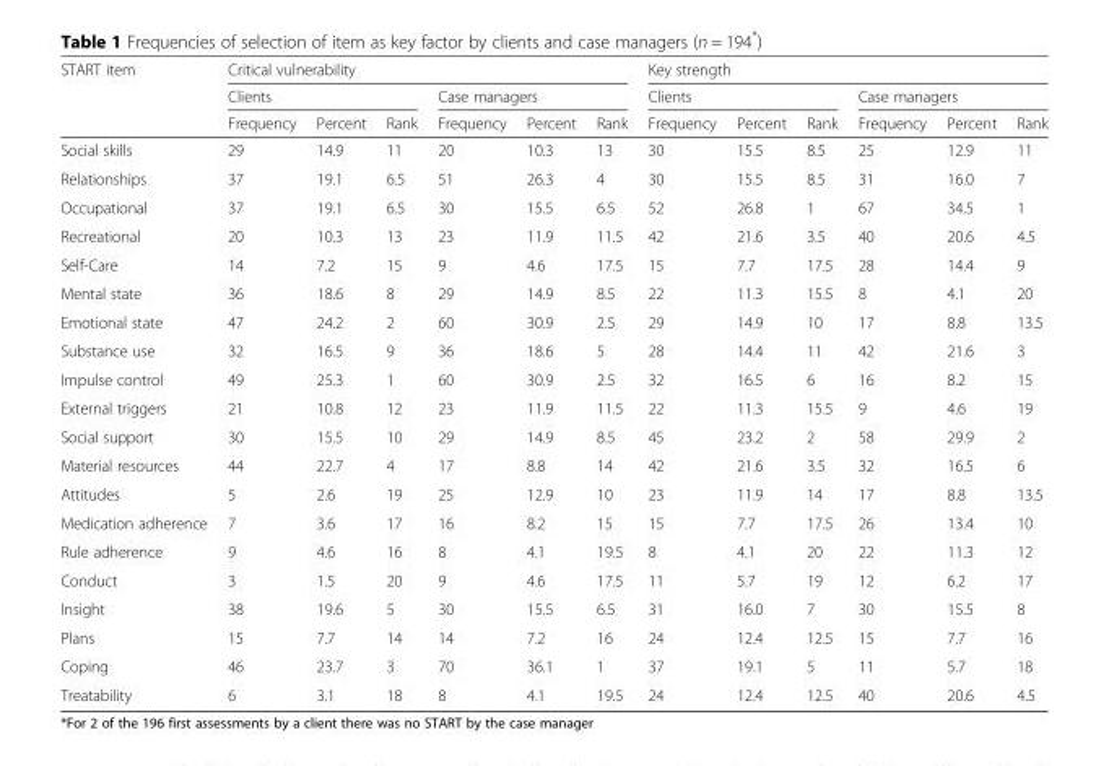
<table><thead><tr><td rowspan="3">START item</td><td colspan="6">Critical vulnerability</td><td colspan="6">Key strength</td></tr><tr><td colspan="3">Clients</td><td colspan="3">Case managers</td><td colspan="3">Clients</td><td colspan="3">Case managers</td></tr><tr><td>Frequency</td><td>Percent</td><td>Rank</td><td>Frequency</td><td>Percent</td><td>Rank</td><td>Frequency</td><td>Percent</td><td>Rank</td><td>Frequency</td><td>Percent</td><td>Rank</td></tr></thead><tbody><tr><td>Social skills</td><td>29</td><td>14.9</td><td>11</td><td>20</td><td>10.3</td><td>13</td><td>30</td><td>15.5</td><td>8.5</td><td>25</td><td>12.9</td><td>11</td></tr><tr><td>Relationships</td><td>37</td><td>19.1</td><td>6.5</td><td>51</td><td>26.3</td><td>4</td><td>30</td><td>15.5</td><td>8.5</td><td>31</td><td>16.0</td><td>7</td></tr><tr><td>Occupational</td><td>37</td><td>19.1</td><td>6.5</td><td>30</td><td>15.5</td><td>6.5</td><td>52</td><td>26.8</td><td>1</td><td>67</td><td>34.5</td><td>1</td></tr><tr><td>Recreational</td><td>20</td><td>10.3</td><td>13</td><td>23</td><td>11.9</td><td>11.5</td><td>42</td><td>21.6</td><td>3.5</td><td>40</td><td>20.6</td><td>4.5</td></tr><tr><td>Self-Care</td><td>14</td><td>7.2</td><td>15</td><td>9</td><td>4.6</td><td>17.5</td><td>15</td><td>7.7</td><td>17.5</td><td>28</td><td>14.4</td><td>9</td></tr><tr><td>Mental state</td><td>36</td><td>18.6</td><td>8</td><td>29</td><td>14.9</td><td>8.5</td><td>22</td><td>11.3</td><td>15.5</td><td>8</td><td>4.1</td><td>20</td></tr><tr><td>Emotional state</td><td>47</td><td>24.2</td><td>2</td><td>60</td><td>30.9</td><td>2.5</td><td>29</td><td>14.9</td><td>10</td><td>17</td><td>8.8</td><td>13.5</td></tr><tr><td>Substance use</td><td>32</td><td>16.5</td><td>9</td><td>36</td><td>18.6</td><td>5</td><td>28</td><td>14.4</td><td>11</td><td>42</td><td>21.6</td><td>3</td></tr><tr><td>Impulse control</td><td>49</td><td>25.3</td><td>1</td><td>60</td><td>30.9</td><td>2.5</td><td>32</td><td>16.5</td><td>6</td><td>16</td><td>8.2</td><td>15</td></tr><tr><td>External triggers</td><td>21</td><td>10.8</td><td>12</td><td>23</td><td>11.9</td><td>11.5</td><td>22</td><td>11.3</td><td>15.5</td><td>9</td><td>4.6</td><td>19</td></tr><tr><td>Social support</td><td>30</td><td>15.5</td><td>10</td><td>29</td><td>14.9</td><td>8.5</td><td>45</td><td>23.2</td><td>2</td><td>58</td><td>29.9</td><td>2</td></tr><tr><td>Material resources</td><td>44</td><td>22.7</td><td>4</td><td>17</td><td>8.8</td><td>14</td><td>42</td><td>21.6</td><td>3.5</td><td>32</td><td>16.5</td><td>6</td></tr><tr><td>Attitudes</td><td>5</td><td>2.6</td><td>19</td><td>25</td><td>12.9</td><td>10</td><td>23</td><td>11.9</td><td>14</td><td>17</td><td>8.8</td><td>13.5</td></tr><tr><td>Medication adherence</td><td>7</td><td>3.6</td><td>17</td><td>16</td><td>8.2</td><td>15</td><td>15</td><td>7.7</td><td>17.5</td><td>26</td><td>13.4</td><td>10</td></tr><tr><td>Rule adherence</td><td>9</td><td>4.6</td><td>16</td><td>8</td><td>4.1</td><td>19.5</td><td>8</td><td>4.1</td><td>20</td><td>22</td><td>11.3</td><td>12</td></tr><tr><td>Conduct</td><td>3</td><td>1.5</td><td>20</td><td>9</td><td>4.6</td><td>17.5</td><td>11</td><td>5.7</td><td>19</td><td>12</td><td>6.2</td><td>17</td></tr><tr><td>Insight</td><td>38</td><td>19.6</td><td>5</td><td>30</td><td>15.5</td><td>6.5</td><td>31</td><td>16.0</td><td>7</td><td>30</td><td>15.5</td><td>8</td></tr><tr><td>Plans</td><td>15</td><td>7.7</td><td>14</td><td>14</td><td>7.2</td><td>16</td><td>24</td><td>12.4</td><td>12.5</td><td>15</td><td>7.7</td><td>16</td></tr><tr><td>Coping</td><td>46</td><td>23.7</td><td>3</td><td>70</td><td>36.1</td><td>1</td><td>37</td><td>19.1</td><td>5</td><td>11</td><td>5.7</td><td>18</td></tr><tr><td>Treatability</td><td>6</td><td>3.1</td><td>18</td><td>8</td><td>4.1</td><td>19.5</td><td>24</td><td>12.4</td><td>12.5</td><td>40</td><td>20.6</td><td>4.5</td></tr></tbody></table>